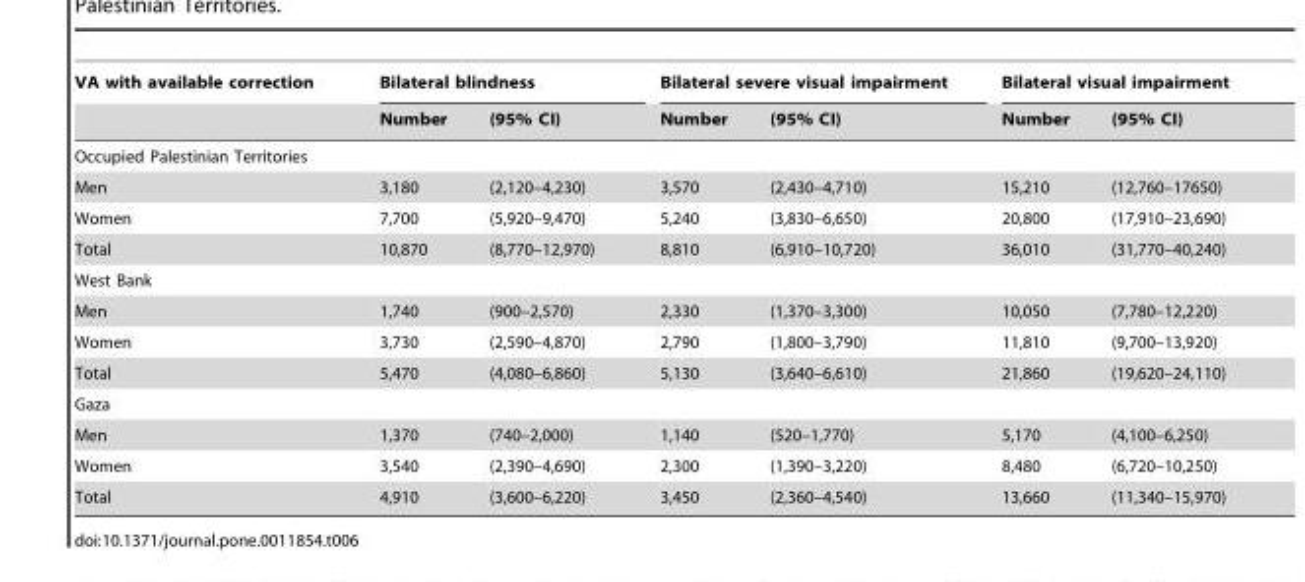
<table><thead><tr><td rowspan="2">VA with available correction</td><td colspan="2">Bilateral blindness</td><td colspan="2">Bilateral severe visual impairment</td><td colspan="2">Bilateral visual impairment</td></tr><tr><td>Number</td><td>(95% CI)</td><td>Number</td><td>(95% CI)</td><td>Number</td><td>(95% CI)</td></tr></thead><tbody><tr><td colspan="7">Occupied Palestinian Territories</td></tr><tr><td>Men</td><td>3,180</td><td>(2,120–4,230)</td><td>3,570</td><td>(2,430–4,710)</td><td>15,210</td><td>(12,760–17650)</td></tr><tr><td>Women</td><td>7,700</td><td>(5,920–9,470)</td><td>5,240</td><td>(3,830–6,650)</td><td>20,800</td><td>(17,910–23,690)</td></tr><tr><td>Total</td><td>10,870</td><td>(8,770–12,970)</td><td>8,810</td><td>(6,910–10,720)</td><td>36,010</td><td>(31,770–40,240)</td></tr><tr><td colspan="7">West Bank</td></tr><tr><td>Men</td><td>1,740</td><td>(900–2,570)</td><td>2,330</td><td>(1,370–3,300)</td><td>10,050</td><td>(7,780–12,220)</td></tr><tr><td>Women</td><td>3,730</td><td>(2,590–4,870)</td><td>2,790</td><td>(1,800–3,790)</td><td>11,810</td><td>(9,700–13,920)</td></tr><tr><td>Total</td><td>5,470</td><td>(4,080–6,860)</td><td>5,130</td><td>(3,640–6,610)</td><td>21,860</td><td>(19,620–24,110)</td></tr><tr><td colspan="7">Gaza</td></tr><tr><td>Men</td><td>1,370</td><td>(740–2,000)</td><td>1,140</td><td>(520–1,770)</td><td>5,170</td><td>(4,100–6,250)</td></tr><tr><td>Women</td><td>3,540</td><td>(2,390–4,690)</td><td>2,300</td><td>(1,390–3,220)</td><td>8,480</td><td>(6,720–10,250)</td></tr><tr><td>Total</td><td>4,910</td><td>(3,600–6,220)</td><td>3,450</td><td>(2,360–4,540)</td><td>13,660</td><td>(11,340–15,970)</td></tr></tbody></table>